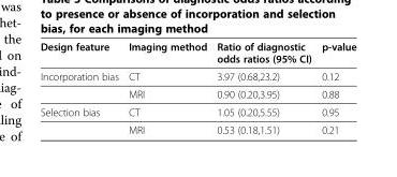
<table><thead><tr><td>Design feature</td><td>Imaging method</td><td>Ratio of diagnostic odds ratios (95% CI)</td><td>p-value</td></tr></thead><tbody><tr><td rowspan="2">Incorporation bias</td><td>CT</td><td>3.97 (0.68,23.2)</td><td>0.12</td></tr><tr><td>MRI</td><td>0.90 (0.20,3.95)</td><td>0.88</td></tr><tr><td rowspan="2">Selection bias</td><td>CT</td><td>1.05 (0.20,5.55)</td><td>0.95</td></tr><tr><td>MRI</td><td>0.53 (0.18,1.51)</td><td>0.21</td></tr></tbody></table>